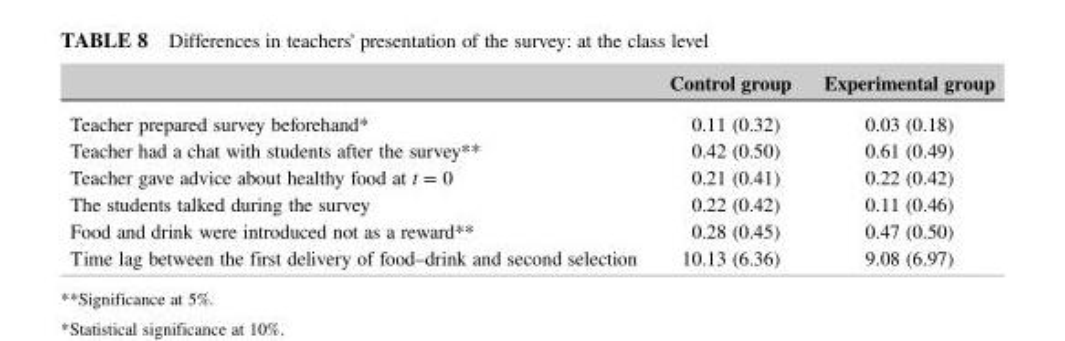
<table><thead><tr><td></td><td>Control group</td><td>Experimental group</td></tr></thead><tbody><tr><td>Teacher prepared survey beforehand*</td><td>0.11 (0.32)</td><td>0.03 (0.18)</td></tr><tr><td>Teacher had a chat with students after the survey**</td><td>0.42 (0.50)</td><td>0.61 (0.49)</td></tr><tr><td>Teacher gave advice about healthy food at t = 0</td><td>0.21 (0.41)</td><td>0.22 (0.42)</td></tr><tr><td>The students talked during the survey</td><td>0.22 (0.42)</td><td>0.11 (0.46)</td></tr><tr><td>Food and drink were introduced not as a reward**</td><td>0.28 (0.45)</td><td>0.47 (0.50)</td></tr><tr><td>Time lag between the first delivery of food–drink and second selection</td><td>10.13 (6.36)</td><td>9.08 (6.97)</td></tr></tbody></table>